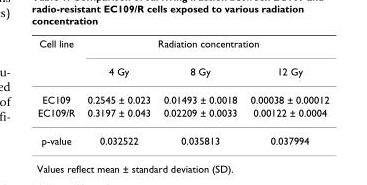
<table><thead><tr><td rowspan="2">Cell line</td><td colspan="3">Radiation concentration</td></tr><tr><td>4 Gy</td><td>8 Gy</td><td>12 Gy</td></tr></thead><tbody><tr><td>EC109</td><td>0.2545 ± 0.023</td><td>0.01493 ± 0.0018</td><td>0.00038 ± 0.00012</td></tr><tr><td>EC109/R</td><td>0.3197 ± 0.043</td><td>0.02209 ± 0.0033</td><td>0.00122 ± 0.0004</td></tr><tr><td>p-value</td><td>0.032522</td><td>0.035813</td><td>0.037994</td></tr></tbody></table>